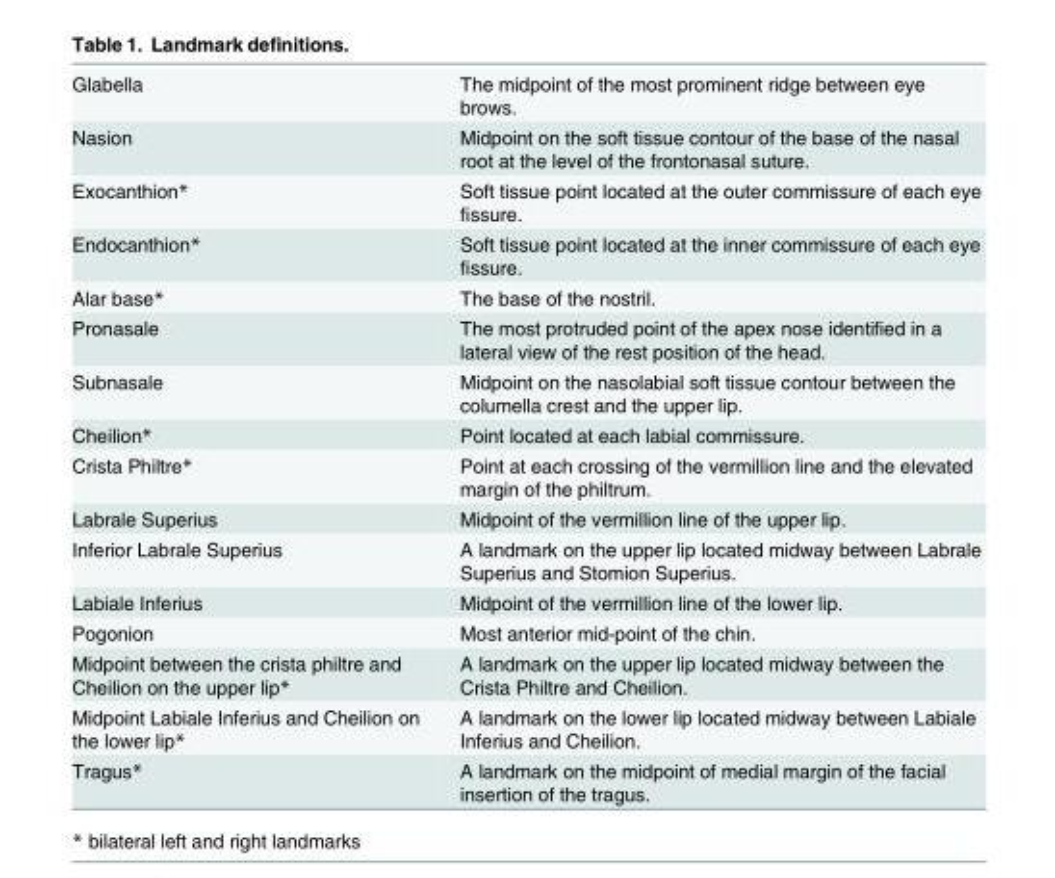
<table><tbody><tr><td>Glabella</td><td>The midpoint of the most prominent ridge between eye brows.</td></tr><tr><td>Nasion</td><td>Midpoint on the soft tissue contour of the base of the nasal root at the level of the frontonasal suture.</td></tr><tr><td>Exocanthion*</td><td>Soft tissue point located at the outer commissure of each eye fissure.</td></tr><tr><td>Endocanthion*</td><td>Soft tissue point located at the inner commissure of each eye fissure.</td></tr><tr><td>Alar base*</td><td>The base of the nostril.</td></tr><tr><td>Pronasale</td><td>The most protruded point of the apex nose identified in a lateral view of the rest position of the head.</td></tr><tr><td>Subnasale</td><td>Midpoint on the nasolabial soft tissue contour between the columella crest and the upper lip.</td></tr><tr><td>Cheilion*</td><td>Point located at each labial commissure.</td></tr><tr><td>Crista Philtre*</td><td>Point at each crossing of the vermillion line and the elevated margin of the philtrum.</td></tr><tr><td>Labrale Superius</td><td>Midpoint of the vermillion line of the upper lip.</td></tr><tr><td>Inferior Labrale Superius</td><td>A landmark on the upper lip located midway between Labrale Superius and Stomion Superius.</td></tr><tr><td>Labiale Inferius</td><td>Midpoint of the vermillion line of the lower lip.</td></tr><tr><td>Pogonion</td><td>Most anterior mid-point of the chin.</td></tr><tr><td>Midpoint between the crista philtre and Cheilion on the upper lip*</td><td>A landmark on the upper lip located midway between the Crista Philtre and Cheilion.</td></tr><tr><td>Midpoint Labiale Inferius and Cheilion on the lower lip*</td><td>A landmark on the lower lip located midway between Labiale Inferius and Cheilion.</td></tr><tr><td>Tragus*</td><td>A landmark on the midpoint of medial margin of the facial insertion of the tragus.</td></tr></tbody></table>